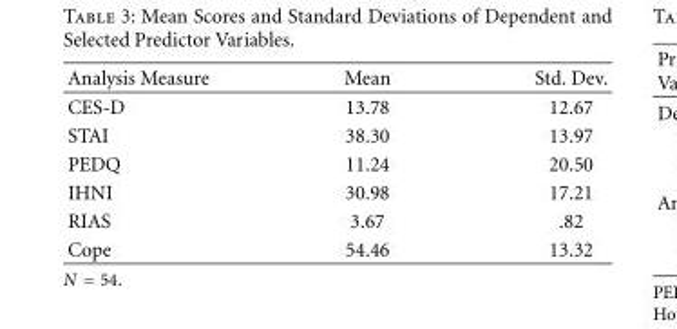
<table><thead><tr><td>Analysis Measure</td><td>Mean</td><td>Std. Dev.</td></tr></thead><tbody><tr><td>CES-D</td><td>13.78</td><td>12.67</td></tr><tr><td>STAI</td><td>38.30</td><td>13.97</td></tr><tr><td>PEDQ</td><td>11.24</td><td>20.50</td></tr><tr><td>IHNI</td><td>30.98</td><td>17.21</td></tr><tr><td>RIAS</td><td>3.67</td><td>.82</td></tr><tr><td>Cope</td><td>54.46</td><td>13.32</td></tr></tbody></table>